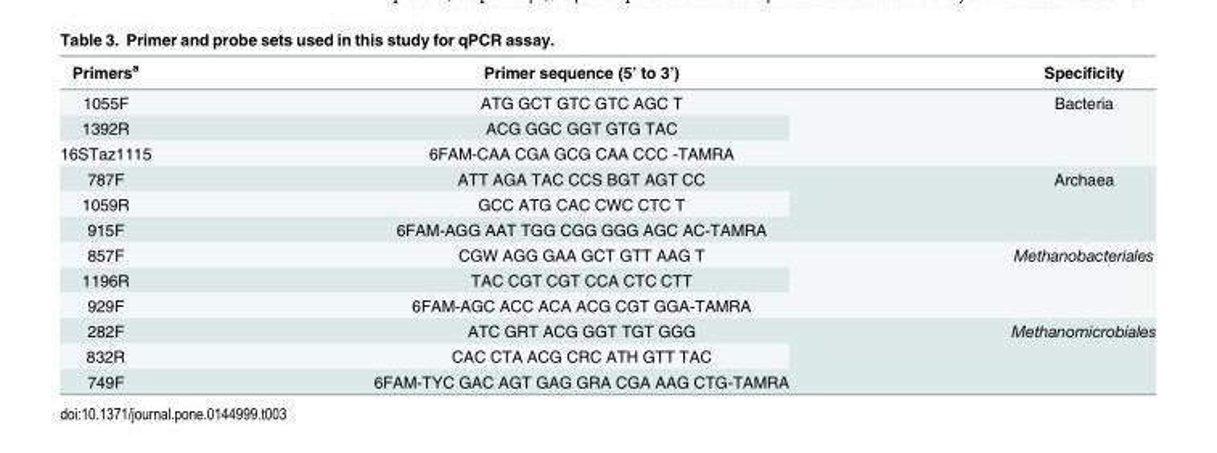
<table><thead><tr><td>Primers<sup>a</sup></td><td>Primer sequence (5’ to 3’)</td><td>Specificity</td></tr></thead><tbody><tr><td>1055F</td><td>ATG GCT GTC GTC AGC T</td><td rowspan="3">Bacteria</td></tr><tr><td>1392R</td><td>ACG GGC GGT GTG TAC</td></tr><tr><td>16STaz1115</td><td>6FAM-CAA CGA GCG CAA CCC -TAMRA</td></tr><tr><td>787F</td><td>ATT AGA TAC CCS BGT AGT CC</td><td rowspan="3">Archaea</td></tr><tr><td>1059R</td><td>GCC ATG CAC CWC CTC T</td></tr><tr><td>915F</td><td>6FAM-AGG AAT TGG CGG GGG AGC AC-TAMRA</td></tr><tr><td>857F</td><td>CGW AGG GAA GCT GTT AAG T</td><td rowspan="3">Methanobacteriales</td></tr><tr><td>1196R</td><td>TAC CGT CGT CCA CTC CTT</td></tr><tr><td>929F</td><td>6FAM-AGC ACC ACA ACG CGT GGA-TAMRA</td></tr><tr><td>282F</td><td>ATC GRT ACG GGT TGT GGG</td><td rowspan="3">Methanomicrobiales</td></tr><tr><td>832R</td><td>CAC CTA ACG CRC ATH GTT TAC</td></tr><tr><td>749F</td><td>6FAM-TYC GAC AGT GAG GRA CGA AAG CTG-TAMRA</td></tr></tbody></table>